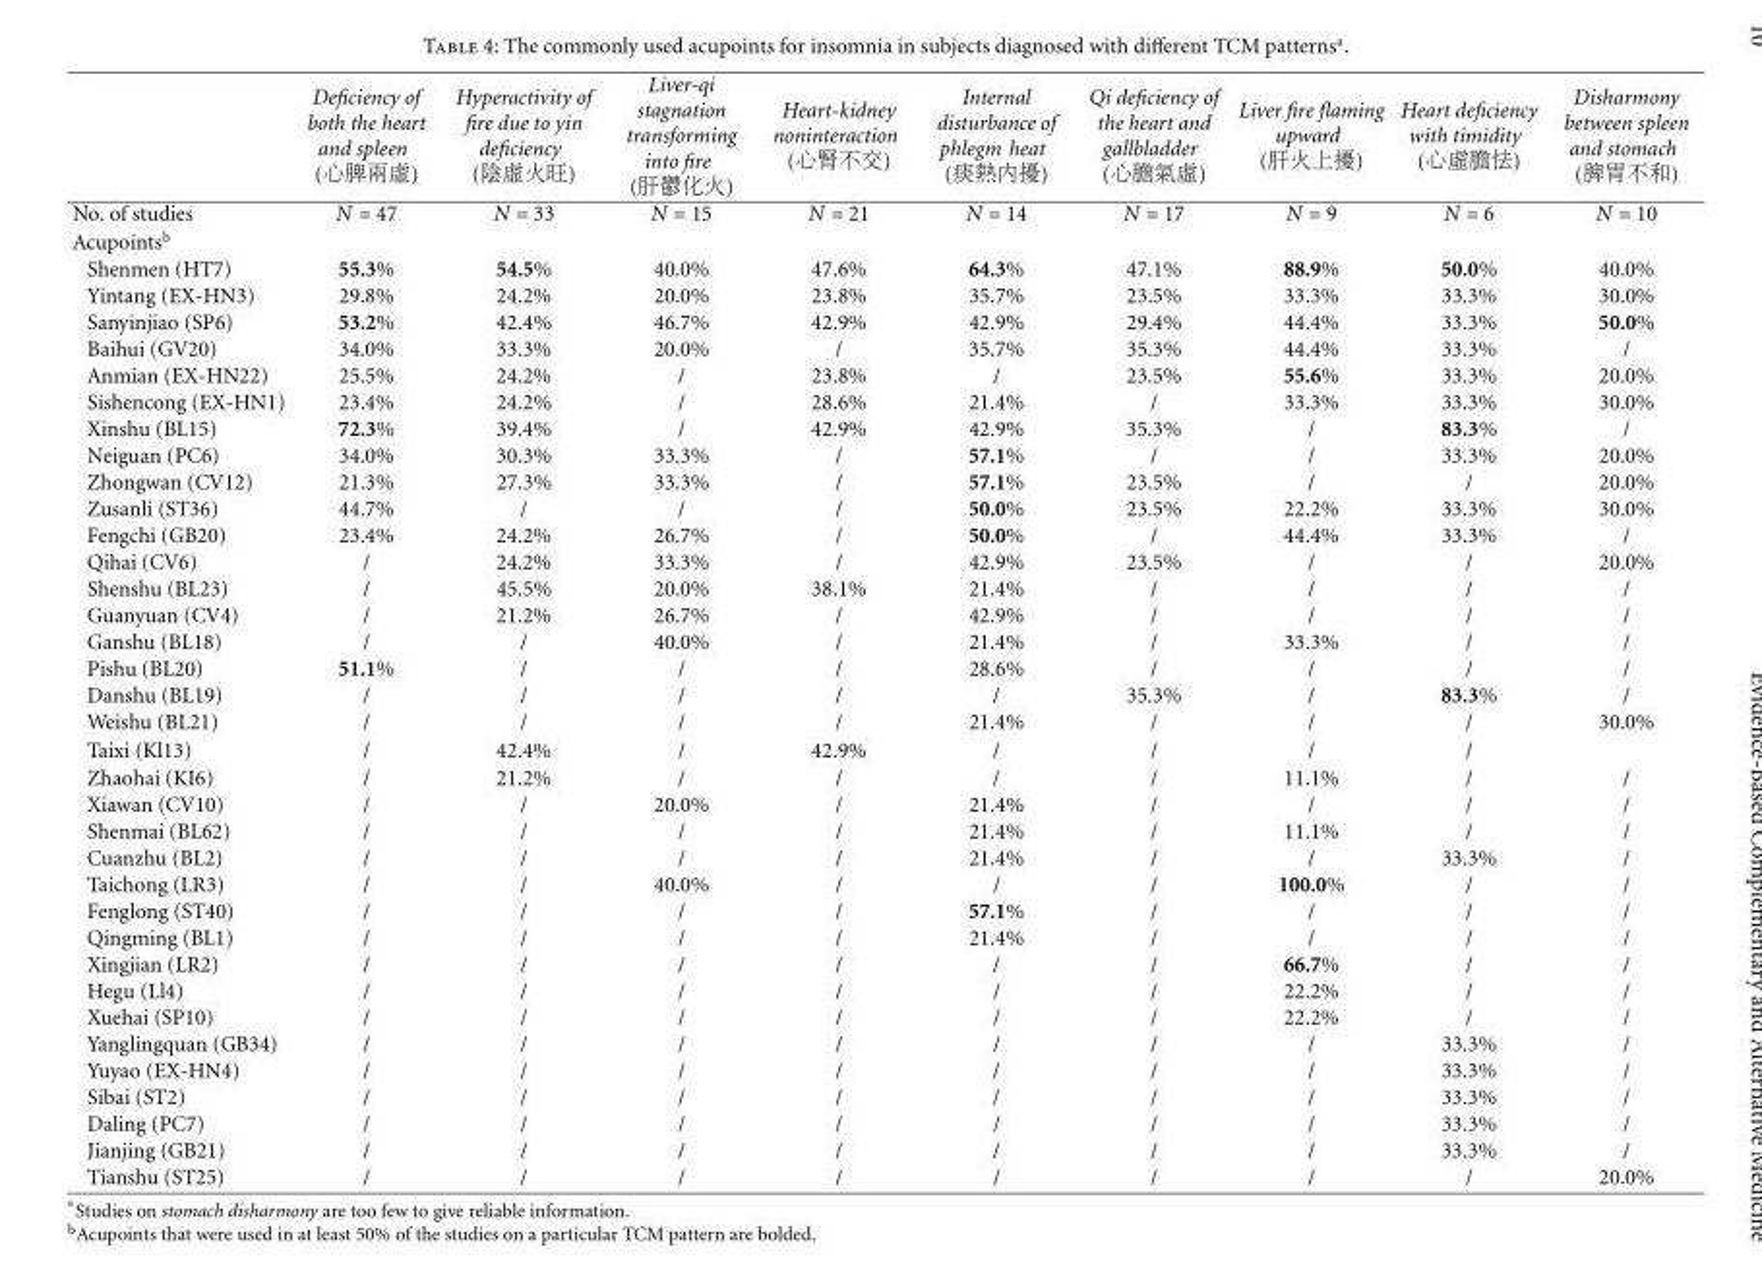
<table><thead><tr><td></td><td>Deficiency of both the heart and spleen (心脾兩虛)</td><td>Hyperactivity of fire due to yin deficiency (陰虛火旺)</td><td>Liver-qi stagnation transforming into fire (肝鬱化火)</td><td>Heart-kidney noninteraction (心腎不交)</td><td>Internal disturbance of phlegm heat (痰熱內擾)</td><td>Qi deficiency of the heart and gallbladder (心膽氣虛)</td><td>Liver fire flaming upward (肝火上擾)</td><td>Heart deficiency with timidity (心虛膽怯)</td><td>Disharmony between spleen and stomach (脾胃不和)</td></tr></thead><tbody><tr><td>No. of studies</td><td>N = 47</td><td>N = 33</td><td>N = 15</td><td>N = 21</td><td>N = 14</td><td>N = 17</td><td>N = 9</td><td>N = 6</td><td>N = 10</td></tr><tr><td colspan="10">Acupoints<sup>b</sup></td></tr><tr><td>Shenmen (HT7)</td><td>55.3%</td><td>54.5%</td><td>40.0%</td><td>47.6%</td><td>64.3%</td><td>47.1%</td><td>88.9%</td><td>50.0%</td><td>40.0%</td></tr><tr><td>Yintang (EX-HN3)</td><td>29.8%</td><td>24.2%</td><td>20.0%</td><td>23.8%</td><td>35.7%</td><td>23.5%</td><td>33.3%</td><td>33.3%</td><td>30.0%</td></tr><tr><td>Sanyinjiao (SP6)</td><td>53.2%</td><td>42.4%</td><td>46.7%</td><td>42.9%</td><td>42.9%</td><td>29.4%</td><td>44.4%</td><td>33.3%</td><td>50.0%</td></tr><tr><td>Baihui (GV20)</td><td>34.0%</td><td>33.3%</td><td>20.0%</td><td>/</td><td>35.7%</td><td>35.3%</td><td>44.4%</td><td>33.3%</td><td>/</td></tr><tr><td>Anmian (EX-HN22)</td><td>25.5%</td><td>24.2%</td><td>/</td><td>23.8%</td><td>/</td><td>23.5%</td><td>55.6%</td><td>33.3%</td><td>20.0%</td></tr><tr><td>Sishencong (EX-HN1)</td><td>23.4%</td><td>24.2%</td><td>/</td><td>28.6%</td><td>21.4%</td><td>/</td><td>33.3%</td><td>33.3%</td><td>30.0%</td></tr><tr><td>Xinshu (BL15)</td><td>72.3%</td><td>39.4%</td><td>/</td><td>42.9%</td><td>42.9%</td><td>35.3%</td><td>/</td><td>83.3%</td><td>/</td></tr><tr><td>Neiguan (PC6)</td><td>34.0%</td><td>30.3%</td><td>33.3%</td><td>/</td><td>57.1%</td><td>/</td><td>/</td><td>33.3%</td><td>20.0%</td></tr><tr><td>Zhongwan (CV12)</td><td>21.3%</td><td>27.3%</td><td>33.3%</td><td>/</td><td>57.1%</td><td>23.5%</td><td>/</td><td>/</td><td>20.0%</td></tr><tr><td>Zusanli (ST36)</td><td>44.7%</td><td>/</td><td>/</td><td>/</td><td>50.0%</td><td>23.5%</td><td>22.2%</td><td>33.3%</td><td>30.0%</td></tr><tr><td>Fengchi (GB20)</td><td>23.4%</td><td>24.2%</td><td>26.7%</td><td>/</td><td>50.0%</td><td>/</td><td>44.4%</td><td>33.3%</td><td>/</td></tr><tr><td>Qihai (CV6)</td><td>/</td><td>24.2%</td><td>33.3%</td><td>/</td><td>42.9%</td><td>23.5%</td><td>/</td><td>/</td><td>20.0%</td></tr><tr><td>Shenshu (BL23)</td><td>/</td><td>45.5%</td><td>20.0%</td><td>38.1%</td><td>21.4%</td><td>/</td><td>/</td><td>/</td><td>/</td></tr><tr><td>Guanyuan (CV4)</td><td>/</td><td>21.2%</td><td>26.7%</td><td>/</td><td>42.9%</td><td>/</td><td>/</td><td>/</td><td>/</td></tr><tr><td>Ganshu (BL18)</td><td>/</td><td>/</td><td>40.0%</td><td>/</td><td>21.4%</td><td>/</td><td>33.3%</td><td>/</td><td>/</td></tr><tr><td>Pishu (BL20)</td><td>51.1%</td><td>/</td><td>/</td><td>/</td><td>28.6%</td><td>/</td><td>/</td><td>/</td><td>/</td></tr><tr><td>Danshu (BL19)</td><td>/</td><td>/</td><td>/</td><td>/</td><td>/</td><td>35.3%</td><td>/</td><td>83.3%</td><td>/</td></tr><tr><td>Weishu (BL21)</td><td>/</td><td>/</td><td>/</td><td>/</td><td>21.4%</td><td>/</td><td>/</td><td>/</td><td>30.0%</td></tr><tr><td>Taixi (Kl13)</td><td>/</td><td>42.4%</td><td>/</td><td>42.9%</td><td>/</td><td>/</td><td>/</td><td>/</td><td></td></tr><tr><td>Zhaohai (KI6)</td><td>/</td><td>21.2%</td><td>/</td><td>/</td><td>/</td><td>/</td><td>11.1%</td><td>/</td><td>/</td></tr><tr><td>Xiawan (CV10)</td><td>/</td><td>/</td><td>20.0%</td><td>/</td><td>21.4%</td><td>/</td><td>/</td><td>/</td><td>/</td></tr><tr><td>Shenmai (BL62)</td><td>/</td><td>/</td><td>/</td><td>/</td><td>21.4%</td><td>/</td><td>11.1%</td><td>/</td><td>/</td></tr><tr><td>Cuanzhu (BL2)</td><td>/</td><td>/</td><td>/</td><td>/</td><td>21.4%</td><td>/</td><td>/</td><td>33.3%</td><td>/</td></tr><tr><td>Taichong (LR3)</td><td>/</td><td>/</td><td>40.0%</td><td>/</td><td>/</td><td>/</td><td>100.0%</td><td>/</td><td>/</td></tr><tr><td>Fenglong (ST40)</td><td>/</td><td>/</td><td>/</td><td>/</td><td>57.1%</td><td>/</td><td>/</td><td>/</td><td>/</td></tr><tr><td>Qingming (BL1)</td><td>/</td><td>/</td><td>/</td><td>/</td><td>21.4%</td><td>/</td><td>/</td><td>/</td><td>/</td></tr><tr><td>Xingjian (LR2)</td><td>/</td><td>/</td><td>/</td><td>/</td><td>/</td><td>/</td><td>66.7%</td><td>/</td><td>/</td></tr><tr><td>Hegu (Ll4)</td><td>/</td><td>/</td><td>/</td><td>/</td><td>/</td><td>/</td><td>22.2%</td><td>/</td><td>/</td></tr><tr><td>Xuehai (SP10)</td><td>/</td><td>/</td><td>/</td><td>/</td><td>/</td><td>/</td><td>22.2%</td><td>/</td><td>/</td></tr><tr><td>Yanglingquan (GB34)</td><td>/</td><td>/</td><td>/</td><td>/</td><td>/</td><td>/</td><td>/</td><td>33.3%</td><td>/</td></tr><tr><td>Yuyao (EX-HN4)</td><td>/</td><td>/</td><td>/</td><td>/</td><td>/</td><td>/</td><td>/</td><td>33.3%</td><td>/</td></tr><tr><td>Sibai (ST2)</td><td>/</td><td>/</td><td>/</td><td>/</td><td>/</td><td>/</td><td>/</td><td>33.3%</td><td>/</td></tr><tr><td>Daling (PC7)</td><td>/</td><td>/</td><td>/</td><td>/</td><td>/</td><td>/</td><td>/</td><td>33.3%</td><td>/</td></tr><tr><td>Jianjing (GB21)</td><td>/</td><td>/</td><td>/</td><td>/</td><td>/</td><td>/</td><td>/</td><td>33.3%</td><td>/</td></tr><tr><td>Tianshu (ST25)</td><td>/</td><td>/</td><td>/</td><td>/</td><td>/</td><td>/</td><td>/</td><td>/</td><td>20.0%</td></tr></tbody></table>